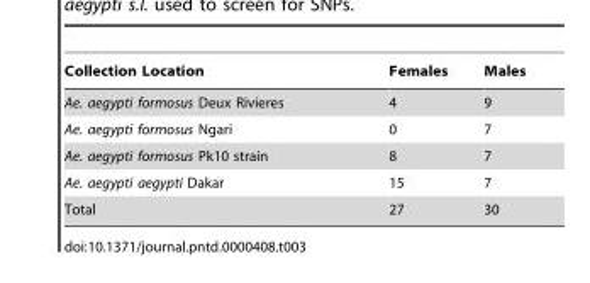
<table><thead><tr><td>Collection Location</td><td>Females</td><td>Males</td></tr></thead><tbody><tr><td>Ae. aegypti formosus Deux Rivieres</td><td>4</td><td>9</td></tr><tr><td>Ae. aegypti formosus Ngari</td><td>0</td><td>7</td></tr><tr><td>Ae. aegypti formosus Pk10 strain</td><td>8</td><td>7</td></tr><tr><td>Ae. aegypti aegypti Dakar</td><td>15</td><td>7</td></tr><tr><td>Total</td><td>27</td><td>30</td></tr></tbody></table>